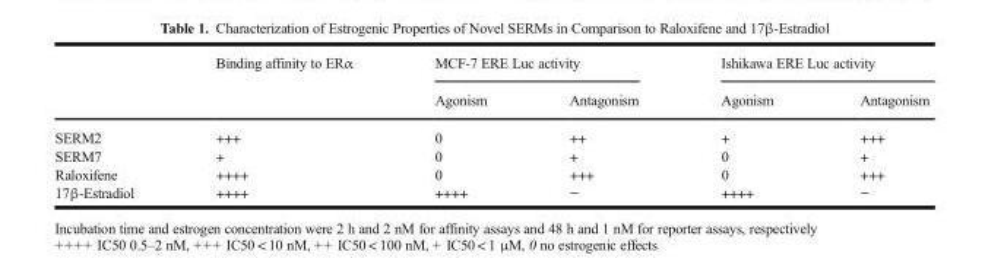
<table><thead><tr><td rowspan="2"></td><td rowspan="2">Binding affinity to ERα</td><td colspan="2">MCF-7 ERE Luc activity</td><td colspan="2">Ishikawa ERE Luc activity</td></tr><tr><td>Agonism</td><td>Antagonism</td><td>Agonism</td><td>Antagonism</td></tr></thead><tbody><tr><td>SERM2</td><td>+++</td><td>0</td><td>++</td><td>+</td><td>+++</td></tr><tr><td>SERM7</td><td>+</td><td>0</td><td>+</td><td>0</td><td>+</td></tr><tr><td>Raloxifene</td><td>++++</td><td>0</td><td>+++</td><td>0</td><td>+++</td></tr><tr><td>17β-Estradiol</td><td>++++</td><td>++++</td><td>−</td><td>++++</td><td>−</td></tr></tbody></table>